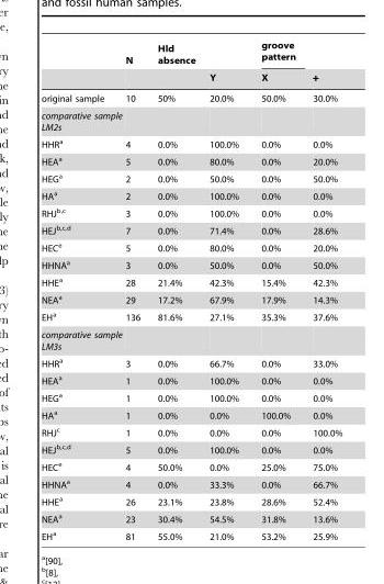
<table><thead><tr><td rowspan="2"></td><td rowspan="2">N</td><td rowspan="2">Hld absence</td><td rowspan="2">Y</td><td rowspan="2">groove pattern X</td><td rowspan="2">+</td></tr><tr></tr></thead><tbody><tr><td>original sample</td><td>10</td><td>50%</td><td>20.0%</td><td>50.0%</td><td>30.0%</td></tr><tr><td colspan="6">comparative sample LM2s</td></tr><tr><td>HHR<sup>a</sup></td><td>4</td><td>0.0%</td><td>100.0%</td><td>0.0%</td><td>0.0%</td></tr><tr><td>HEA<sup>a</sup></td><td>5</td><td>0.0%</td><td>80.0%</td><td>0.0%</td><td>20.0%</td></tr><tr><td>HEG<sup>a</sup></td><td>2</td><td>0.0%</td><td>50.0%</td><td>0.0%</td><td>50.0%</td></tr><tr><td>HA<sup>a</sup></td><td>2</td><td>0.0%</td><td>100.0%</td><td>0.0%</td><td>0.0%</td></tr><tr><td>RHJb,c</td><td>3</td><td>0.0%</td><td>100.0%</td><td>0.0%</td><td>0.0%</td></tr><tr><td>HEJb,c,d</td><td>7</td><td>0.0%</td><td>71.4%</td><td>0.0%</td><td>28.6%</td></tr><tr><td>HEC<sup>e</sup></td><td>5</td><td>0.0%</td><td>80.0%</td><td>0.0%</td><td>20.0%</td></tr><tr><td>HHNA<sup>a</sup></td><td>3</td><td>0.0%</td><td>50.0%</td><td>0.0%</td><td>50.0%</td></tr><tr><td>HHE<sup>a</sup></td><td>28</td><td>21.4%</td><td>42.3%</td><td>15.4%</td><td>42.3%</td></tr><tr><td>NEA<sup>a</sup></td><td>29</td><td>17.2%</td><td>67.9%</td><td>17.9%</td><td>14.3%</td></tr><tr><td>EH<sup>a</sup></td><td>136</td><td>81.6%</td><td>27.1%</td><td>35.3%</td><td>37.6%</td></tr><tr><td colspan="6">comparative sample LM3s</td></tr><tr><td>HHR<sup>a</sup></td><td>3</td><td>0.0%</td><td>66.7%</td><td>0.0%</td><td>33.0%</td></tr><tr><td>HEA<sup>a</sup></td><td>1</td><td>0.0%</td><td>100.0%</td><td>0.0%</td><td>0.0%</td></tr><tr><td>HEG<sup>a</sup></td><td>1</td><td>0.0%</td><td>100.0%</td><td>0.0%</td><td>0.0%</td></tr><tr><td>HA<sup>a</sup></td><td>1</td><td>0.0%</td><td>0.0%</td><td>100.0%</td><td>0.0%</td></tr><tr><td>RHJ<sup>c</sup></td><td>1</td><td>0.0%</td><td>0.0%</td><td>0.0%</td><td>100.0%</td></tr><tr><td>HEJb,c,d</td><td>5</td><td>0.0%</td><td>100.0%</td><td>0.0%</td><td>0.0%</td></tr><tr><td>HEC<sup>e</sup></td><td>4</td><td>50.0%</td><td>0.0%</td><td>25.0%</td><td>75.0%</td></tr><tr><td>HHNA<sup>a</sup></td><td>4</td><td>0.0%</td><td>33.3%</td><td>0.0%</td><td>66.7%</td></tr><tr><td>HHE<sup>a</sup></td><td>26</td><td>23.1%</td><td>23.8%</td><td>28.6%</td><td>52.4%</td></tr><tr><td>NEA<sup>a</sup></td><td>23</td><td>30.4%</td><td>54.5%</td><td>31.8%</td><td>13.6%</td></tr><tr><td>EH<sup>a</sup></td><td>81</td><td>55.0%</td><td>21.0%</td><td>53.2%</td><td>25.9%</td></tr></tbody></table>